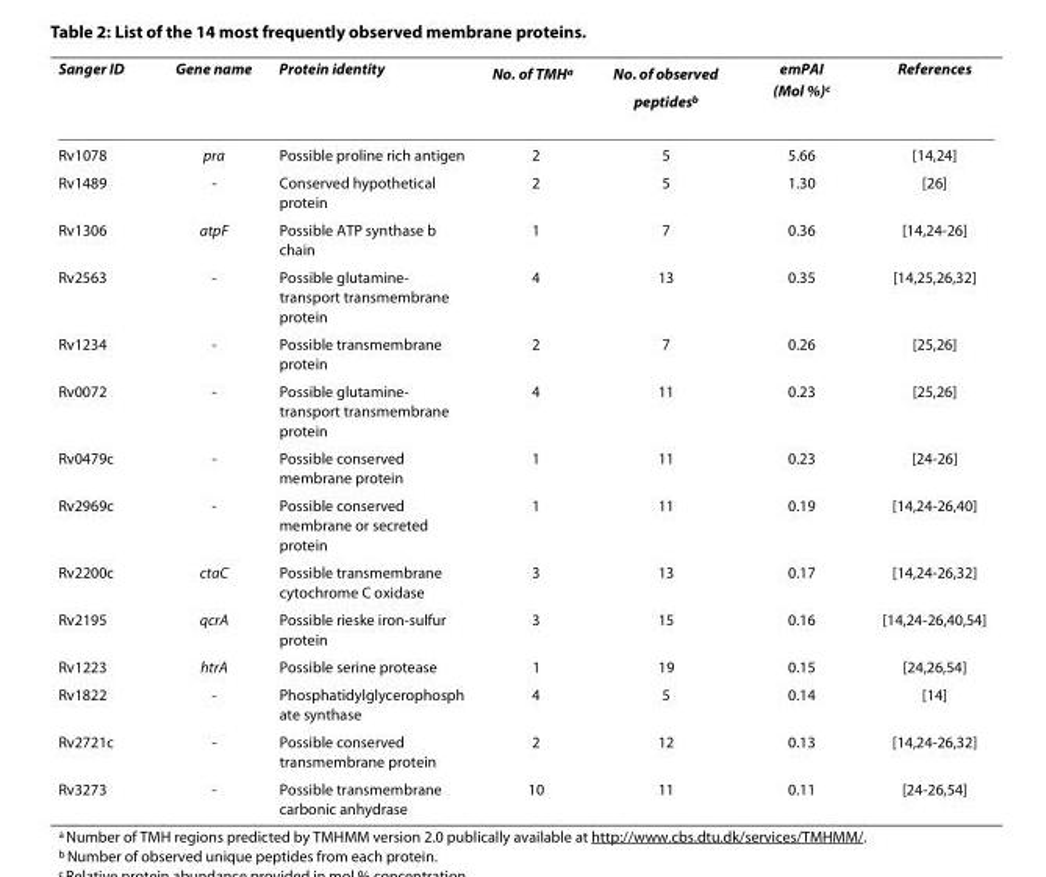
<table><thead><tr><td>Sanger ID</td><td>Gene name</td><td>Protein identity</td><td>No. of TMH<sup>a</sup></td><td>No. of observed peptides<sup>b</sup></td><td>emPAI (Mol %)<sup>c</sup></td><td>References</td></tr></thead><tbody><tr><td>Rv1078</td><td>pra</td><td>Possible proline rich antigen</td><td>2</td><td>5</td><td>5.66</td><td>[14,24]</td></tr><tr><td>Rv1489</td><td>-</td><td>Conserved hypothetical protein</td><td>2</td><td>5</td><td>1.30</td><td>[26]</td></tr><tr><td>Rv1306</td><td>atpF</td><td>Possible ATP synthase b chain</td><td>1</td><td>7</td><td>0.36</td><td>[14,24-26]</td></tr><tr><td>Rv2563</td><td>-</td><td>Possible glutamine- transport transmembrane protein</td><td>4</td><td>13</td><td>0.35</td><td>[14,25,26,32]</td></tr><tr><td>Rv1234</td><td>-</td><td>Possible transmembrane protein</td><td>2</td><td>7</td><td>0.26</td><td>[25,26]</td></tr><tr><td>Rv0072</td><td>-</td><td>Possible glutamine- transport transmembrane protein</td><td>4</td><td>11</td><td>0.23</td><td>[25,26]</td></tr><tr><td>Rv0479c</td><td>-</td><td>Possible conserved membrane protein</td><td>1</td><td>11</td><td>0.23</td><td>[24-26]</td></tr><tr><td>Rv2969c</td><td>-</td><td>Possible conserved membrane or secreted protein</td><td>1</td><td>11</td><td>0.19</td><td>[14,24-26,40]</td></tr><tr><td>Rv2200c</td><td>ctaC</td><td>Possible transmembrane cytochrome C oxidase</td><td>3</td><td>13</td><td>0.17</td><td>[14,24-26,32]</td></tr><tr><td>Rv2195</td><td>qcrA</td><td>Possible rieske iron-sulfur protein</td><td>3</td><td>15</td><td>0.16</td><td>[14,24-26,40,54]</td></tr><tr><td>Rv1223</td><td>htrA</td><td>Possible serine protease</td><td>1</td><td>19</td><td>0.15</td><td>[24,26,54]</td></tr><tr><td>Rv1822</td><td>-</td><td>Phosphatidylglycerophosph ate synthase</td><td>4</td><td>5</td><td>0.14</td><td>[14]</td></tr><tr><td>Rv2721c</td><td>-</td><td>Possible conserved transmembrane protein</td><td>2</td><td>12</td><td>0.13</td><td>[14,24-26,32]</td></tr><tr><td>Rv3273</td><td>-</td><td>Possible transmembrane carbonic anhydrase</td><td>10</td><td>11</td><td>0.11</td><td>[24-26,54]</td></tr></tbody></table>